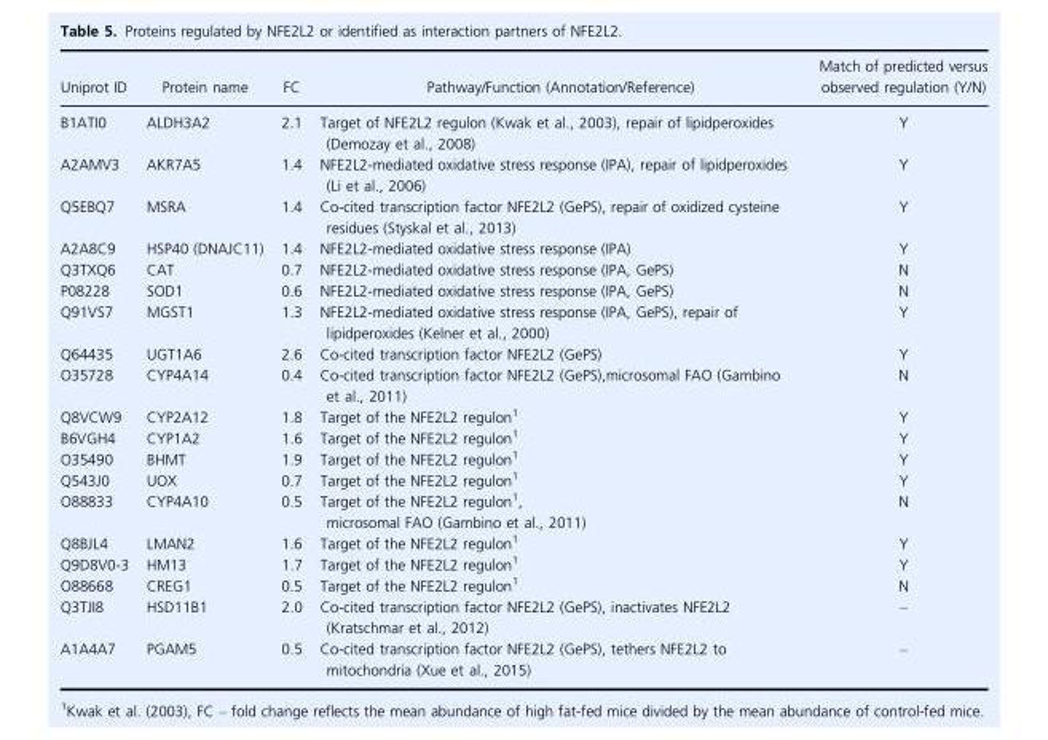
<table><thead><tr><td>Uniprot ID</td><td>Protein name</td><td>FC</td><td>Pathway/Function (Annotation/Reference)</td><td>Match of predicted versus observed regulation (Y/N)</td></tr></thead><tbody><tr><td>B1ATI0</td><td>ALDH3A2</td><td>2.1</td><td>Target of NFE2L2 regulon (Kwak et al., 2003), repair of lipidperoxides (Demozay et al., 2008)</td><td>Y</td></tr><tr><td>A2AMV3</td><td>AKR7A5</td><td>1.4</td><td>NFE2L2-mediated oxidative stress response (IPA), repair of lipidperoxides (Li et al., 2006)</td><td>Y</td></tr><tr><td>Q5EBQ7</td><td>MSRA</td><td>1.4</td><td>Co-cited transcription factor NFE2L2 (GePS), repair of oxidized cysteine residues (Styskal et al., 2013)</td><td>Y</td></tr><tr><td>A2A8C9</td><td>HSP40 (DNAJC11)</td><td>1.4</td><td>NFE2L2-mediated oxidative stress response (IPA)</td><td>Y</td></tr><tr><td>Q3TXQ6</td><td>CAT</td><td>0.7</td><td>NFE2L2-mediated oxidative stress response (IPA, GePS)</td><td>N</td></tr><tr><td>P08228</td><td>SOD1</td><td>0.6</td><td>NFE2L2-mediated oxidative stress response (IPA, GePS)</td><td>N</td></tr><tr><td>Q91VS7</td><td>MGST1</td><td>1.3</td><td>NFE2L2-mediated oxidative stress response (IPA, GePS), repair of lipidperoxides (Kelner et al., 2000)</td><td>Y</td></tr><tr><td>Q64435</td><td>UGT1A6</td><td>2.6</td><td>Co-cited transcription factor NFE2L2 (GePS)</td><td>Y</td></tr><tr><td>O35728</td><td>CYP4A14</td><td>0.4</td><td>Co-cited transcription factor NFE2L2 (GePS),microsomal FAO (Gambino et al., 2011)</td><td>N</td></tr><tr><td>Q8VCW9</td><td>CYP2A12</td><td>1.8</td><td>Target of the NFE2L2 regulon1</td><td>Y</td></tr><tr><td>B6VGH4</td><td>CYP1A2</td><td>1.6</td><td>Target of the NFE2L2 regulon1</td><td>Y</td></tr><tr><td>O35490</td><td>BHMT</td><td>1.9</td><td>Target of the NFE2L2 regulon1</td><td>Y</td></tr><tr><td>Q543J0</td><td>UOX</td><td>0.7</td><td>Target of the NFE2L2 regulon1</td><td>Y</td></tr><tr><td>O88833</td><td>CYP4A10</td><td>0.5</td><td>Target of the NFE2L2 regulon1, microsomal FAO (Gambino et al., 2011)</td><td>N</td></tr><tr><td>Q8BJL4</td><td>LMAN2</td><td>1.6</td><td>Target of the NFE2L2 regulon1</td><td>Y</td></tr><tr><td>Q9D8V0-3</td><td>HM13</td><td>1.7</td><td>Target of the NFE2L2 regulon1</td><td>Y</td></tr><tr><td>O88668</td><td>CREG1</td><td>0.5</td><td>Target of the NFE2L2 regulon1</td><td>N</td></tr><tr><td>Q3TJI8</td><td>HSD11B1</td><td>2.0</td><td>Co-cited transcription factor NFE2L2 (GePS), inactivates NFE2L2 (Kratschmar et al., 2012)</td><td>–</td></tr><tr><td>A1A4A7</td><td>PGAM5</td><td>0.5</td><td>Co-cited transcription factor NFE2L2 (GePS), tethers NFE2L2 to mitochondria (Xue et al., 2015)</td><td>–</td></tr></tbody></table>